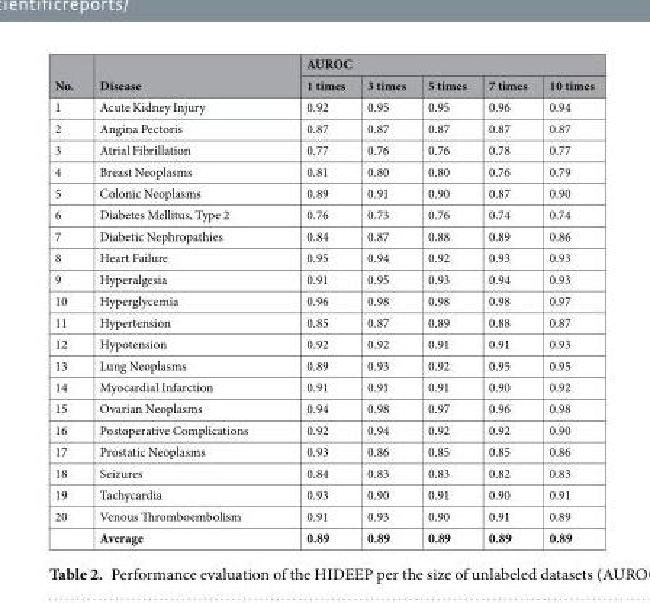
<table><thead><tr><td rowspan="2">No.</td><td rowspan="2">Disease</td><td colspan="5">AUROC</td></tr><tr><td>1 times</td><td>3 times</td><td>5 times</td><td>7 times</td><td>10 times</td></tr></thead><tbody><tr><td>1</td><td>Acute Kidney Injury</td><td>0.92</td><td>0.95</td><td>0.95</td><td>0.96</td><td>0.94</td></tr><tr><td>2</td><td>Angina Pectoris</td><td>0.87</td><td>0.87</td><td>0.87</td><td>0.87</td><td>0.87</td></tr><tr><td>3</td><td>Atrial Fibrillation</td><td>0.77</td><td>0.76</td><td>0.76</td><td>0.78</td><td>0.77</td></tr><tr><td>4</td><td>Breast Neoplasms</td><td>0.81</td><td>0.80</td><td>0.80</td><td>0.76</td><td>0.79</td></tr><tr><td>5</td><td>Colonic Neoplasms</td><td>0.89</td><td>0.91</td><td>0.90</td><td>0.87</td><td>0.90</td></tr><tr><td>6</td><td>Diabetes Mellitus, Type 2</td><td>0.76</td><td>0.73</td><td>0.76</td><td>0.74</td><td>0.74</td></tr><tr><td>7</td><td>Diabetic Nephropathies</td><td>0.84</td><td>0.87</td><td>0.88</td><td>0.89</td><td>0.86</td></tr><tr><td>8</td><td>Heart Failure</td><td>0.95</td><td>0.94</td><td>0.92</td><td>0.93</td><td>0.93</td></tr><tr><td>9</td><td>Hyperalgesia</td><td>0.91</td><td>0.95</td><td>0.93</td><td>0.94</td><td>0.93</td></tr><tr><td>10</td><td>Hyperglycemia</td><td>0.96</td><td>0.98</td><td>0.98</td><td>0.98</td><td>0.97</td></tr><tr><td>11</td><td>Hypertension</td><td>0.85</td><td>0.87</td><td>0.89</td><td>0.88</td><td>0.87</td></tr><tr><td>12</td><td>Hypotension</td><td>0.92</td><td>0.92</td><td>0.91</td><td>0.91</td><td>0.93</td></tr><tr><td>13</td><td>Lung Neoplasms</td><td>0.89</td><td>0.93</td><td>0.92</td><td>0.95</td><td>0.95</td></tr><tr><td>14</td><td>Myocardial Infarction</td><td>0.91</td><td>0.91</td><td>0.91</td><td>0.90</td><td>0.92</td></tr><tr><td>15</td><td>Ovarian Neoplasms</td><td>0.94</td><td>0.98</td><td>0.97</td><td>0.96</td><td>0.98</td></tr><tr><td>16</td><td>Postoperative Complications</td><td>0.92</td><td>0.94</td><td>0.92</td><td>0.92</td><td>0.90</td></tr><tr><td>17</td><td>Prostatic Neoplasms</td><td>0.93</td><td>0.86</td><td>0.85</td><td>0.85</td><td>0.86</td></tr><tr><td>18</td><td>Seizures</td><td>0.84</td><td>0.83</td><td>0.83</td><td>0.82</td><td>0.83</td></tr><tr><td>19</td><td>Tachycardia</td><td>0.93</td><td>0.90</td><td>0.91</td><td>0.90</td><td>0.91</td></tr><tr><td rowspan="2">20</td><td>Venous Thromboembolism</td><td>0.91</td><td>0.93</td><td>0.90</td><td>0.91</td><td>0.89</td></tr><tr><td>Average</td><td>0.89</td><td>0.89</td><td>0.89</td><td>0.89</td><td>0.89</td></tr></tbody></table>